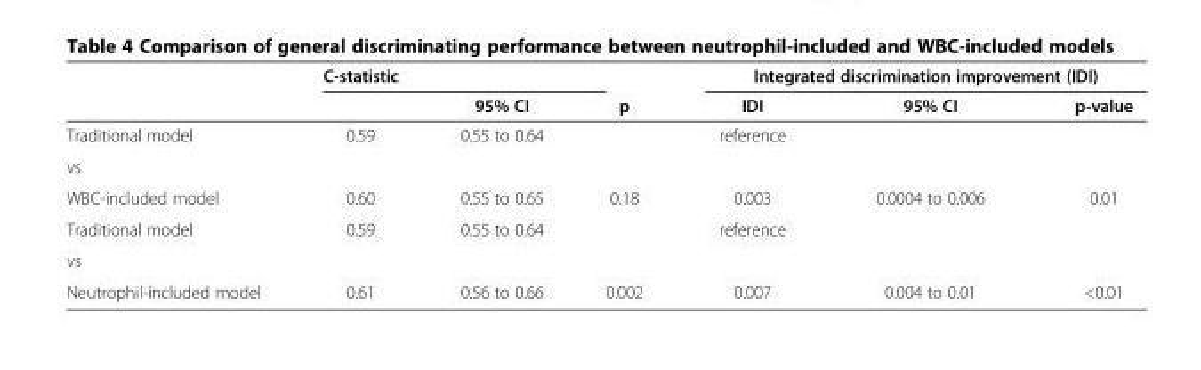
<table><thead><tr><td rowspan="2"></td><td rowspan="2">C-statistic</td><td rowspan="2">95% CI</td><td rowspan="2">p</td><td colspan="3">Integrated discrimination improvement (IDI)</td></tr><tr><td>IDI</td><td>95% CI</td><td>p-value</td></tr></thead><tbody><tr><td>Traditional model</td><td>0.59</td><td>0.55 to 0.64</td><td></td><td>reference</td><td></td><td></td></tr><tr><td colspan="7">vs</td></tr><tr><td>WBC-included model</td><td>0.60</td><td>0.55 to 0.65</td><td>0.18</td><td>0.003</td><td>0.0004 to 0.006</td><td>0.01</td></tr><tr><td>Traditional model</td><td>0.59</td><td>0.55 to 0.64</td><td></td><td>reference</td><td></td><td></td></tr><tr><td colspan="7">vs</td></tr><tr><td>Neutrophil-included model</td><td>0.61</td><td>0.56 to 0.66</td><td>0.002</td><td>0.007</td><td>0.004 to 0.01</td><td>&lt;0.01</td></tr></tbody></table>